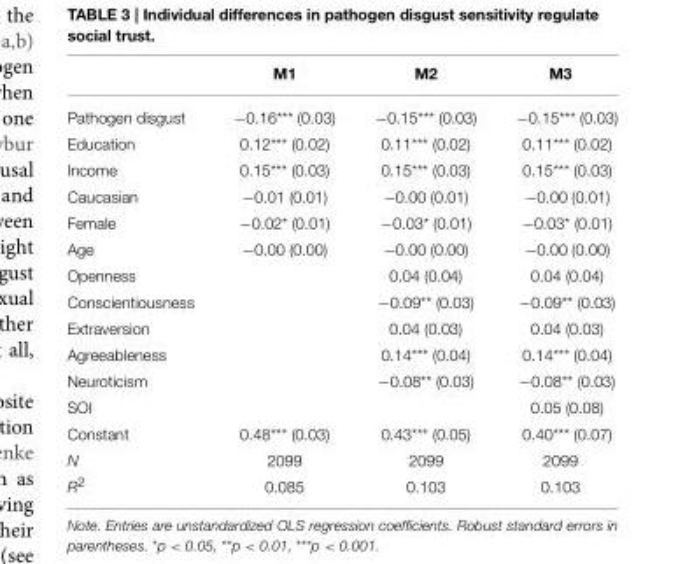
<table><thead><tr><td></td><td>M1</td><td>M2</td><td>M3</td></tr></thead><tbody><tr><td>Pathogen disgust</td><td>−0.16*** (0.03)</td><td>−0.15*** (0.03)</td><td>−0.15*** (0.03)</td></tr><tr><td>Education</td><td>0.12*** (0.02)</td><td>0.11*** (0.02)</td><td>0.11*** (0.02)</td></tr><tr><td>Income</td><td>0.15*** (0.03)</td><td>0.15*** (0.03)</td><td>0.15*** (0.03)</td></tr><tr><td>Caucasian</td><td>−0.01 (0.01)</td><td>−0.00 (0.01)</td><td>−0.00 (0.01)</td></tr><tr><td>Female</td><td>−0.02* (0.01)</td><td>−0.03* (0.01)</td><td>−0.03* (0.01)</td></tr><tr><td>Age</td><td>−0.00 (0.00)</td><td>−0.00 (0.00)</td><td>−0.00 (0.00)</td></tr><tr><td>Openness</td><td></td><td>0.04 (0.04)</td><td>0.04 (0.04)</td></tr><tr><td>Conscientiousness</td><td></td><td>−0.09** (0.03)</td><td>−0.09** (0.03)</td></tr><tr><td>Extraversion</td><td></td><td>0.04 (0.03)</td><td>0.04 (0.03)</td></tr><tr><td>Agreeableness</td><td></td><td>0.14*** (0.04)</td><td>0.14*** (0.04)</td></tr><tr><td>Neuroticism</td><td></td><td>−0.08** (0.03)</td><td>−0.08** (0.03)</td></tr><tr><td>SOI</td><td></td><td></td><td>0.05 (0.08)</td></tr><tr><td>Constant</td><td>0.48*** (0.03)</td><td>0.43*** (0.05)</td><td>0.40*** (0.07)</td></tr><tr><td>N</td><td>2099</td><td>2099</td><td>2099</td></tr><tr><td>R<sup>2</sup></td><td>0.085</td><td>0.103</td><td>0.103</td></tr></tbody></table>